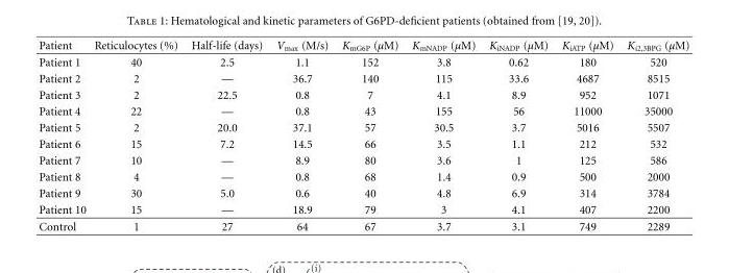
<table><thead><tr><td>Patient</td><td>Reticulocytes (%)</td><td>Half-life (days)</td><td>V<sub>max</sub> (M/s)</td><td>K<sub>mG6P</sub> (µM)</td><td>K<sub>mNADP</sub> (µM)</td><td>K<sub>iNADP</sub> (µM)</td><td>K<sub>iATP</sub> (µM)</td><td>K<sub>i2,3BPG</sub> (µM)</td></tr></thead><tbody><tr><td>Patient 1</td><td>40</td><td>2.5</td><td>1.1</td><td>152</td><td>3.8</td><td>0.62</td><td>180</td><td>520</td></tr><tr><td>Patient 2</td><td>2</td><td>—</td><td>36.7</td><td>140</td><td>115</td><td>33.6</td><td>4687</td><td>8515</td></tr><tr><td>Patient 3</td><td>2</td><td>22.5</td><td>0.8</td><td>7</td><td>4.1</td><td>8.9</td><td>952</td><td>1071</td></tr><tr><td>Patient 4</td><td>22</td><td>—</td><td>0.8</td><td>43</td><td>155</td><td>56</td><td>11000</td><td>35000</td></tr><tr><td>Patient 5</td><td>2</td><td>20.0</td><td>37.1</td><td>57</td><td>30.5</td><td>3.7</td><td>5016</td><td>5507</td></tr><tr><td>Patient 6</td><td>15</td><td>7.2</td><td>14.5</td><td>66</td><td>3.5</td><td>1.1</td><td>212</td><td>532</td></tr><tr><td>Patient 7</td><td>10</td><td>—</td><td>8.9</td><td>80</td><td>3.6</td><td>1</td><td>125</td><td>586</td></tr><tr><td>Patient 8</td><td>4</td><td>—</td><td>0.8</td><td>68</td><td>1.4</td><td>0.9</td><td>500</td><td>2000</td></tr><tr><td>Patient 9</td><td>30</td><td>5.0</td><td>0.6</td><td>40</td><td>4.8</td><td>6.9</td><td>314</td><td>3784</td></tr><tr><td>Patient 10</td><td>15</td><td>—</td><td>18.9</td><td>79</td><td>3</td><td>4.1</td><td>407</td><td>2200</td></tr><tr><td>Control</td><td>1</td><td>27</td><td>64</td><td>67</td><td>3.7</td><td>3.1</td><td>749</td><td>2289</td></tr></tbody></table>